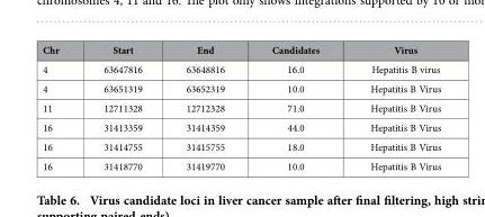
<table><thead><tr><td>Chr</td><td>Start</td><td>End</td><td>Candidates</td><td>Virus</td></tr></thead><tbody><tr><td>4</td><td>63647816</td><td>63648816</td><td>16.0</td><td>Hepatitis B virus</td></tr><tr><td>4</td><td>63651319</td><td>63652319</td><td>10.0</td><td>Hepatitis B Virus</td></tr><tr><td>11</td><td>12711328</td><td>12712328</td><td>71.0</td><td>Hepatitis B Virus</td></tr><tr><td>16</td><td>31413359</td><td>31414359</td><td>44.0</td><td>Hepatitis B Virus</td></tr><tr><td>16</td><td>31414755</td><td>31415755</td><td>18.0</td><td>Hepatitis B Virus</td></tr><tr><td>16</td><td>31418770</td><td>31419770</td><td>10.0</td><td>Hepatitis B Virus</td></tr></tbody></table>